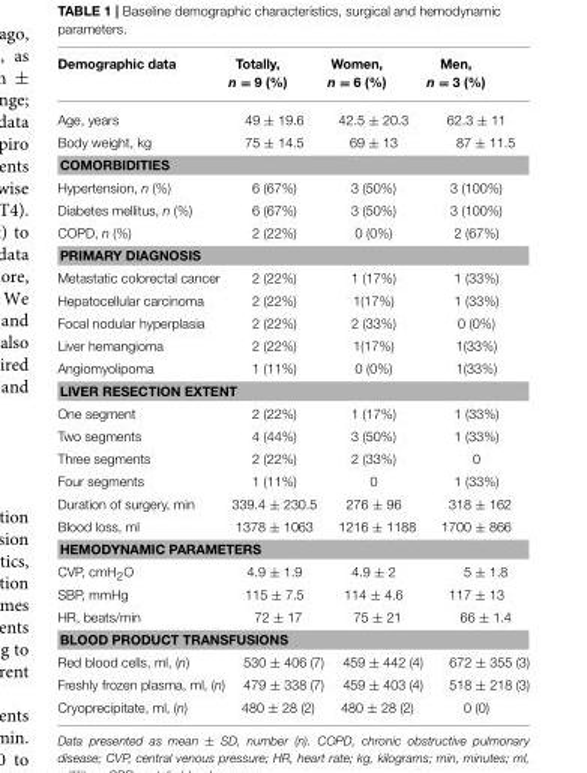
<table><thead><tr><td>Demographic data</td><td>Totally, n = 9 (%)</td><td>Women, n = 6 (%)</td><td>Men, n = 3 (%)</td></tr></thead><tbody><tr><td>Age, years</td><td>49 ± 19.6</td><td>42.5 ± 20.3</td><td>62.3 ± 11</td></tr><tr><td>Body weight, kg</td><td>75 ± 14.5</td><td>69 ± 13</td><td>87 ± 11.5</td></tr><tr><td colspan="4">COMORBIDITIES</td></tr><tr><td>Hypertension, n (%)</td><td>6 (67%)</td><td>3 (50%)</td><td>3 (100%)</td></tr><tr><td>Diabetes mellitus, n (%)</td><td>6 (67%)</td><td>3 (50%)</td><td>3 (100%)</td></tr><tr><td>COPD, n (%)</td><td>2 (22%)</td><td>0 (0%)</td><td>2 (67%)</td></tr><tr><td colspan="4">PRIMARY DIAGNOSIS</td></tr><tr><td>Metastatic colorectal cancer</td><td>2 (22%)</td><td>1 (17%)</td><td>1 (33%)</td></tr><tr><td>Hepatocellular carcinoma</td><td>2 (22%)</td><td>1(17%)</td><td>1 (33%)</td></tr><tr><td>Focal nodular hyperplasia</td><td>2 (22%)</td><td>2 (33%)</td><td>0 (0%)</td></tr><tr><td>Liver hemangioma</td><td>2 (22%)</td><td>1(17%)</td><td>1(33%)</td></tr><tr><td>Angiomyolipoma</td><td>1 (11%)</td><td>0 (0%)</td><td>1(33%)</td></tr><tr><td colspan="4">LIVER RESECTION EXTENT</td></tr><tr><td>One segment</td><td>2 (22%)</td><td>1 (17%)</td><td>1 (33%)</td></tr><tr><td>Two segments</td><td>4 (44%)</td><td>3 (50%)</td><td>1 (33%)</td></tr><tr><td>Three segments</td><td>2 (22%)</td><td>2 (33%)</td><td>0</td></tr><tr><td>Four segments</td><td>1 (11%)</td><td>0</td><td>1 (33%)</td></tr><tr><td>Duration of surgery, min</td><td>339.4 ± 230.5</td><td>276 ± 96</td><td>318 ± 162</td></tr><tr><td>Blood loss, ml</td><td>1378 ± 1063</td><td>1216 ± 1188</td><td>1700 ± 866</td></tr><tr><td colspan="4">HEMODYNAMIC PARAMETERS</td></tr><tr><td>CVP, cmH<sub>2</sub>O</td><td>4.9 ± 1.9</td><td>4.9 ± 2</td><td>5 ± 1.8</td></tr><tr><td>SBP, mmHg</td><td>115 ± 7.5</td><td>114 ± 4.6</td><td>117 ± 13</td></tr><tr><td>HR, beats/min</td><td>72 ± 17</td><td>75 ± 21</td><td>66 ± 1.4</td></tr><tr><td colspan="4">BLOOD PRODUCT TRANSFUSIONS</td></tr><tr><td>Red blood cells, ml, (n)</td><td>530 ± 406 (7)</td><td>459 ± 442 (4)</td><td>672 ± 355 (3)</td></tr><tr><td>Freshly frozen plasma, ml, (n)</td><td>479 ± 338 (7)</td><td>459 ± 403 (4)</td><td>518 ± 218 (3)</td></tr><tr><td>Cryoprecipitate, ml, (n)</td><td>480 ± 28 (2)</td><td>480 ± 28 (2)</td><td>0 (0)</td></tr></tbody></table>